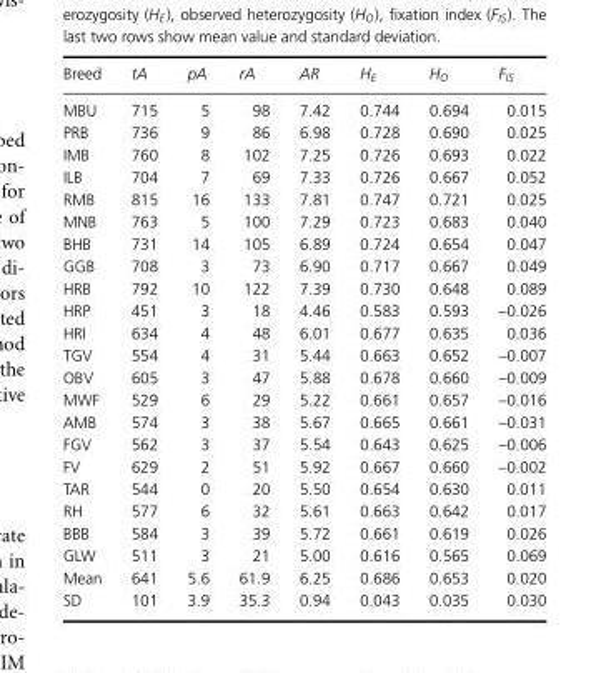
<table><thead><tr><td>Breed</td><td>tA</td><td>pA</td><td>rA</td><td>AR</td><td>H<sub>E</sub></td><td>H<sub>O</sub></td><td>F<sub>IS</sub></td></tr></thead><tbody><tr><td>MBU</td><td>715</td><td>5</td><td>98</td><td>7.42</td><td>0.744</td><td>0.694</td><td>0.015</td></tr><tr><td>PRB</td><td>736</td><td>9</td><td>86</td><td>6.98</td><td>0.728</td><td>0.690</td><td>0.025</td></tr><tr><td>IMB</td><td>760</td><td>8</td><td>102</td><td>7.25</td><td>0.726</td><td>0.693</td><td>0.022</td></tr><tr><td>ILB</td><td>704</td><td>7</td><td>69</td><td>7.33</td><td>0.726</td><td>0.667</td><td>0.052</td></tr><tr><td>RMB</td><td>815</td><td>16</td><td>133</td><td>7.81</td><td>0.747</td><td>0.721</td><td>0.025</td></tr><tr><td>MNB</td><td>763</td><td>5</td><td>100</td><td>7.29</td><td>0.723</td><td>0.683</td><td>0.040</td></tr><tr><td>BHB</td><td>731</td><td>14</td><td>105</td><td>6.89</td><td>0.724</td><td>0.654</td><td>0.047</td></tr><tr><td>GGB</td><td>708</td><td>3</td><td>73</td><td>6.90</td><td>0.717</td><td>0.667</td><td>0.049</td></tr><tr><td>HRB</td><td>792</td><td>10</td><td>122</td><td>7.39</td><td>0.730</td><td>0.648</td><td>0.089</td></tr><tr><td>HRP</td><td>451</td><td>3</td><td>18</td><td>4.46</td><td>0.583</td><td>0.593</td><td>–0.026</td></tr><tr><td>HRI</td><td>634</td><td>4</td><td>48</td><td>6.01</td><td>0.677</td><td>0.635</td><td>0.036</td></tr><tr><td>TGV</td><td>554</td><td>4</td><td>31</td><td>5.44</td><td>0.663</td><td>0.652</td><td>–0.007</td></tr><tr><td>OBV</td><td>605</td><td>3</td><td>47</td><td>5.88</td><td>0.678</td><td>0.660</td><td>–0.009</td></tr><tr><td>MWF</td><td>529</td><td>6</td><td>29</td><td>5.22</td><td>0.661</td><td>0.657</td><td>–0.016</td></tr><tr><td>AMB</td><td>574</td><td>3</td><td>38</td><td>5.67</td><td>0.665</td><td>0.661</td><td>–0.031</td></tr><tr><td>FGV</td><td>562</td><td>3</td><td>37</td><td>5.54</td><td>0.643</td><td>0.625</td><td>–0.006</td></tr><tr><td>FV</td><td>629</td><td>2</td><td>51</td><td>5.92</td><td>0.667</td><td>0.660</td><td>–0.002</td></tr><tr><td>TAR</td><td>544</td><td>0</td><td>20</td><td>5.50</td><td>0.654</td><td>0.630</td><td>0.011</td></tr><tr><td>RH</td><td>577</td><td>6</td><td>32</td><td>5.61</td><td>0.663</td><td>0.642</td><td>0.017</td></tr><tr><td>BBB</td><td>584</td><td>3</td><td>39</td><td>5.72</td><td>0.661</td><td>0.619</td><td>0.026</td></tr><tr><td>GLW</td><td>511</td><td>3</td><td>21</td><td>5.00</td><td>0.616</td><td>0.565</td><td>0.069</td></tr><tr><td>Mean</td><td>641</td><td>5.6</td><td>61.9</td><td>6.25</td><td>0.686</td><td>0.653</td><td>0.020</td></tr><tr><td>SD</td><td>101</td><td>3.9</td><td>35.3</td><td>0.94</td><td>0.043</td><td>0.035</td><td>0.030</td></tr></tbody></table>